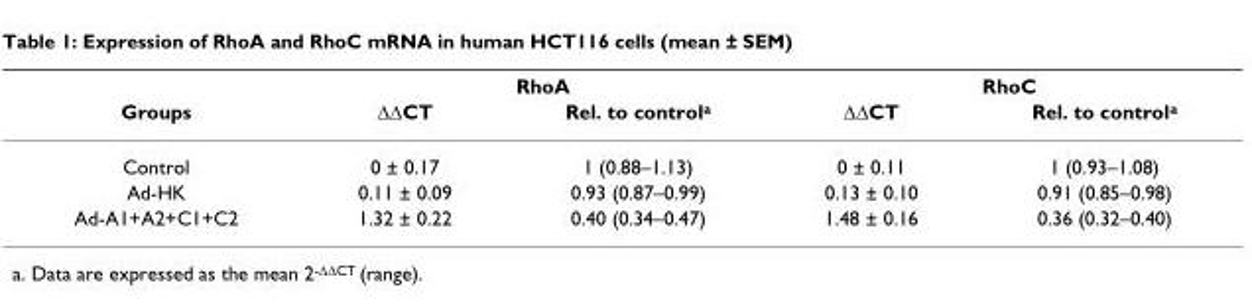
<table><thead><tr><td rowspan="2">Groups</td><td colspan="2">RhoA</td><td colspan="2">RhoC</td></tr><tr><td>ΔΔCT</td><td>Rel. to control<sup>a</sup></td><td>ΔΔCT</td><td>Rel. to control<sup>a</sup></td></tr></thead><tbody><tr><td>Control</td><td>0 ± 0.17</td><td>1 (0.88–1.13)</td><td>0 ± 0.11</td><td>1 (0.93–1.08)</td></tr><tr><td>Ad-HK</td><td>0.11 ± 0.09</td><td>0.93 (0.87–0.99)</td><td>0.13 ± 0.10</td><td>0.91 (0.85–0.98)</td></tr><tr><td>Ad-A1+A2+C1+C2</td><td>1.32 ± 0.22</td><td>0.40 (0.34–0.47)</td><td>1.48 ± 0.16</td><td>0.36 (0.32–0.40)</td></tr></tbody></table>